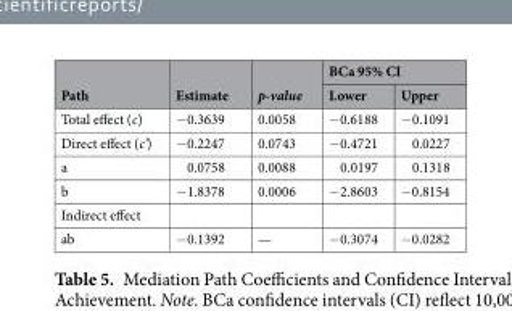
<table><thead><tr><td rowspan="2">Path</td><td rowspan="2">Estimate</td><td rowspan="2">p-value</td><td colspan="2">BCa 95% CI</td></tr><tr><td>Lower</td><td>Upper</td></tr></thead><tbody><tr><td>Total effect (c)</td><td>−0.3639</td><td>0.0058</td><td>−0.6188</td><td>−0.1091</td></tr><tr><td>Direct effect (c’)</td><td>−0.2247</td><td>0.0743</td><td>−0.4721</td><td>0.0227</td></tr><tr><td>a</td><td>0.0758</td><td>0.0088</td><td>0.0197</td><td>0.1318</td></tr><tr><td>b</td><td>−1.8378</td><td>0.0006</td><td>−2.8603</td><td>−0.8154</td></tr><tr><td colspan="5">Indirect effect</td></tr><tr><td>ab</td><td>−0.1392</td><td>—</td><td>−0.3074</td><td>−0.0282</td></tr></tbody></table>